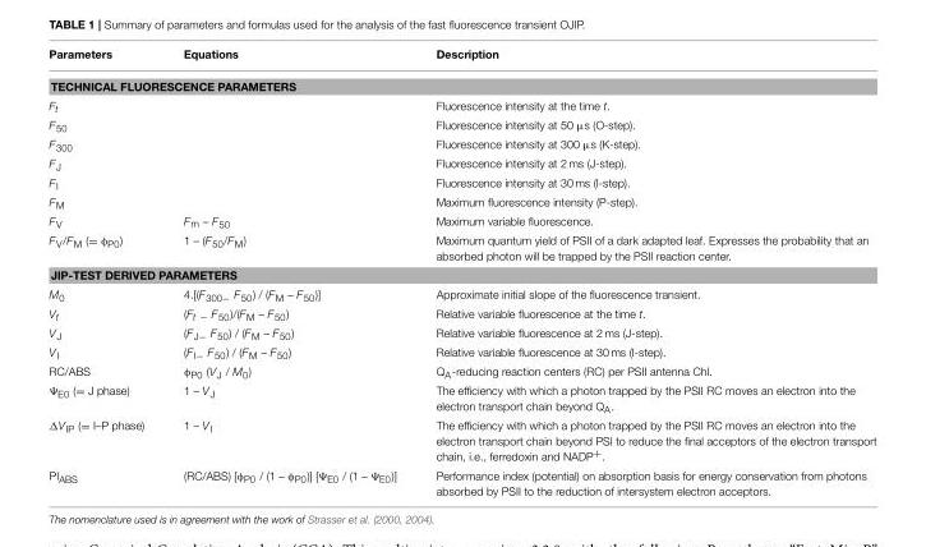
<table><thead><tr><td>Parameters</td><td>Equations</td><td>Description</td></tr></thead><tbody><tr><td colspan="3">TECHNICAL FLUORESCENCE PARAMETERS</td></tr><tr><td>Ft</td><td></td><td>Fluorescence intensity at the time t.</td></tr><tr><td>F<sub>50</sub></td><td></td><td>Fluorescence intensity at 50 µs (O-step).</td></tr><tr><td>F<sub>300</sub></td><td></td><td>Fluorescence intensity at 300 µs (K-step).</td></tr><tr><td>F<sub>J</sub></td><td></td><td>Fluorescence intensity at 2 ms (J-step).</td></tr><tr><td>F<sub>I</sub></td><td></td><td>Fluorescence intensity at 30 ms (I-step).</td></tr><tr><td>F<sub>M</sub></td><td></td><td>Maximum fluorescence intensity (P-step).</td></tr><tr><td>F<sub>V</sub></td><td>F<sub>m</sub> – F<sub>50</sub></td><td>Maximum variable fluorescence.</td></tr><tr><td>F<sub>V</sub>/F<sub>M</sub> (= φ<sub>P0</sub>)</td><td>1 – (F<sub>50</sub>/F<sub>M</sub>)</td><td>Maximum quantum yield of PSII of a dark adapted leaf. Expresses the probability that an absorbed photon will be trapped by the PSII reaction center.</td></tr><tr><td colspan="3">JIP-TEST DERIVED PARAMETERS</td></tr><tr><td>M<sub>0</sub></td><td>4.[(F<sub>300−</sub> F<sub>50</sub>) / (F<sub>M</sub> – F<sub>50</sub>)]</td><td>Approximate initial slope of the fluorescence transient.</td></tr><tr><td>Vt</td><td>(Ft − F50)/(FM – F50)</td><td>Relative variable fluorescence at the time t.</td></tr><tr><td>V<sub>J</sub></td><td>(F<sub>J−</sub> F<sub>50</sub>) / (F<sub>M</sub> – F<sub>50</sub>)</td><td>Relative variable fluorescence at 2 ms (J-step).</td></tr><tr><td>V<sub>I</sub></td><td>(F<sub>I−</sub> F<sub>50</sub>) / (F<sub>M</sub> – F<sub>50</sub>)</td><td>Relative variable fluorescence at 30 ms (I-step).</td></tr><tr><td>RC/ABS</td><td>φ<sub>P0</sub> (V<sub>J</sub> / M<sub>0</sub>)</td><td>Q<sub>A</sub>-reducing reaction centers (RC) per PSII antenna Chl.</td></tr><tr><td>Ψ<sub>E0</sub> (= J phase)</td><td>1 – V<sub>J</sub></td><td>The efficiency with which a photon trapped by the PSII RC moves an electron into the electron transport chain beyond Q<sub>A</sub>.</td></tr><tr><td>ΔV<sub>IP</sub> (= I–P phase)</td><td>1 – V<sub>I</sub></td><td>The efficiency with which a photon trapped by the PSII RC moves an electron into the electron transport chain beyond PSI to reduce the final acceptors of the electron transport chain, i.e., ferredoxin and NADP<sup>+</sup>.</td></tr><tr><td>PI<sub>ABS</sub></td><td>(RC/ABS) [φ<sub>P0</sub> / (1 – φ<sub>P0</sub>)] [Ψ<sub>E0</sub> / (1 – Ψ<sub>E0</sub>)]</td><td>Performance index (potential) on absorption basis for energy conservation from photons absorbed by PSII to the reduction of intersystem electron acceptors.</td></tr></tbody></table>